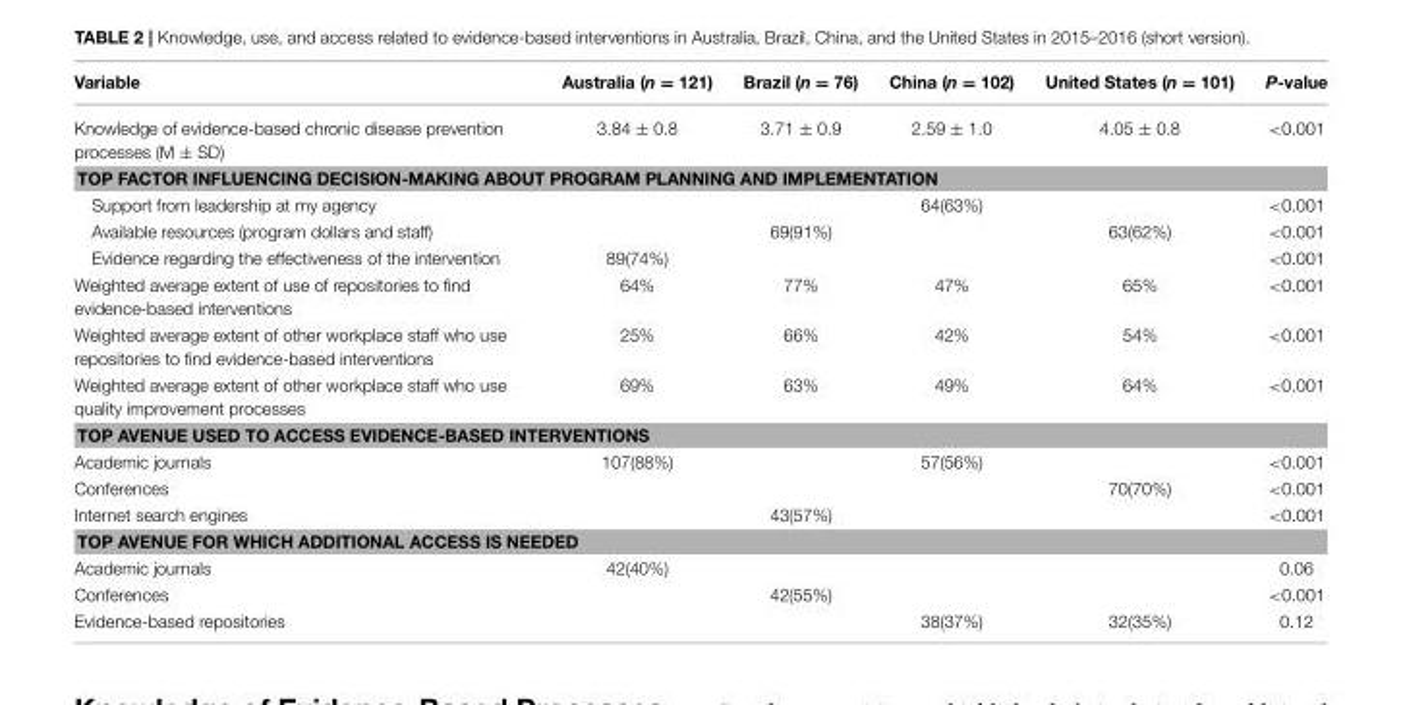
<table><thead><tr><td>Variable</td><td>Australia (n = 121)</td><td>Brazil (n = 76)</td><td>China (n = 102)</td><td>United States (n = 101)</td><td>P-value</td></tr></thead><tbody><tr><td>Knowledge of evidence-based chronic disease prevention processes (M ± SD)</td><td>3.84 ± 0.8</td><td>3.71 ± 0.9</td><td>2.59 ± 1.0</td><td>4.05 ± 0.8</td><td>&lt;0.001</td></tr><tr><td colspan="6">TOP FACTOR INFLUENCING DECISION-MAKING ABOUT PROGRAM PLANNING AND IMPLEMENTATION</td></tr><tr><td>Support from leadership at my agency</td><td></td><td></td><td>64(63%)</td><td></td><td>&lt;0.001</td></tr><tr><td>Available resources (program dollars and staff)</td><td></td><td>69(91%)</td><td></td><td>63(62%)</td><td>&lt;0.001</td></tr><tr><td>Evidence regarding the effectiveness of the intervention</td><td>89(74%)</td><td></td><td></td><td></td><td>&lt;0.001</td></tr><tr><td>Weighted average extent of use of repositories to find evidence-based interventions</td><td>64%</td><td>77%</td><td>47%</td><td>65%</td><td>&lt;0.001</td></tr><tr><td>Weighted average extent of other workplace staff who use repositories to find evidence-based interventions</td><td>25%</td><td>66%</td><td>42%</td><td>54%</td><td>&lt;0.001</td></tr><tr><td>Weighted average extent of other workplace staff who use quality improvement processes</td><td>69%</td><td>63%</td><td>49%</td><td>64%</td><td>&lt;0.001</td></tr><tr><td colspan="6">TOP AVENUE USED TO ACCESS EVIDENCE-BASED INTERVENTIONS</td></tr><tr><td>Academic journals</td><td>107(88%)</td><td></td><td>57(56%)</td><td></td><td>&lt;0.001</td></tr><tr><td>Conferences</td><td></td><td></td><td></td><td>70(70%)</td><td>&lt;0.001</td></tr><tr><td>Internet search engines</td><td></td><td>43(57%)</td><td></td><td></td><td>&lt;0.001</td></tr><tr><td colspan="6">TOP AVENUE FOR WHICH ADDITIONAL ACCESS IS NEEDED</td></tr><tr><td>Academic journals</td><td>42(40%)</td><td></td><td></td><td></td><td>0.06</td></tr><tr><td>Conferences</td><td></td><td>42(55%)</td><td></td><td></td><td>&lt;0.001</td></tr><tr><td>Evidence-based repositories</td><td></td><td></td><td>38(37%)</td><td>32(35%)</td><td>0.12</td></tr></tbody></table>